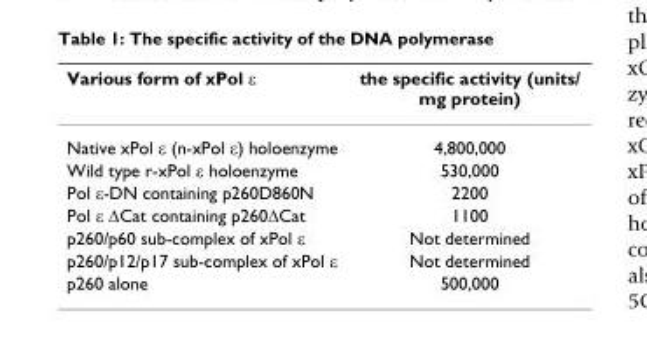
<table><thead><tr><td>Various form of xPol ε</td><td>the specific activity (units/ mg protein)</td></tr></thead><tbody><tr><td>Native xPol ε (n-xPol ε) holoenzyme</td><td>4,800,000</td></tr><tr><td>Wild type r-xPol ε holoenzyme</td><td>530,000</td></tr><tr><td>Pol ε-DN containing p260D860N</td><td>2200</td></tr><tr><td>Pol ε ∆Cat containing p260∆Cat</td><td>1100</td></tr><tr><td>p260/p60 sub-complex of xPol ε</td><td>Not determined</td></tr><tr><td>p260/p12/p17 sub-complex of xPol ε</td><td>Not determined</td></tr><tr><td>p260 alone</td><td>500,000</td></tr></tbody></table>